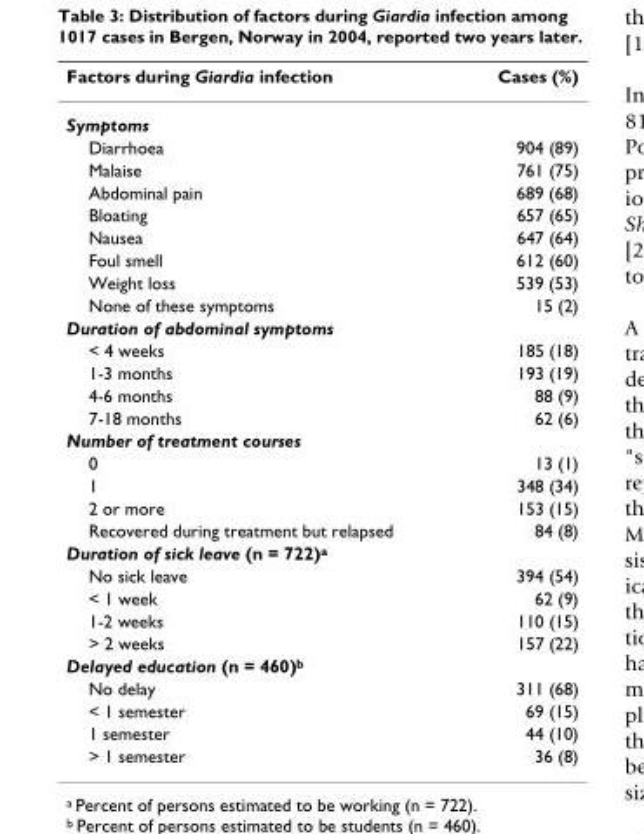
<table><thead><tr><td>Factors during Giardia infection</td><td>Cases (%)</td></tr></thead><tbody><tr><td colspan="2">Symptoms</td></tr><tr><td>Diarrhoea</td><td>904 (89)</td></tr><tr><td>Malaise</td><td>761 (75)</td></tr><tr><td>Abdominal pain</td><td>689 (68)</td></tr><tr><td>Bloating</td><td>657 (65)</td></tr><tr><td>Nausea</td><td>647 (64)</td></tr><tr><td>Foul smell</td><td>612 (60)</td></tr><tr><td>Weight loss</td><td>539 (53)</td></tr><tr><td>None of these symptoms</td><td>15 (2)</td></tr><tr><td colspan="2">Duration of abdominal symptoms</td></tr><tr><td>&lt; 4 weeks</td><td>185 (18)</td></tr><tr><td>1-3 months</td><td>193 (19)</td></tr><tr><td>4-6 months</td><td>88 (9)</td></tr><tr><td>7-18 months</td><td>62 (6)</td></tr><tr><td colspan="2">Number of treatment courses</td></tr><tr><td>0</td><td>13 (1)</td></tr><tr><td>1</td><td>348 (34)</td></tr><tr><td>2 or more</td><td>153 (15)</td></tr><tr><td>Recovered during treatment but relapsed</td><td>84 (8)</td></tr><tr><td colspan="2">Duration of sick leave (n = 722)<sup>a</sup></td></tr><tr><td>No sick leave</td><td>394 (54)</td></tr><tr><td>&lt; 1 week</td><td>62 (9)</td></tr><tr><td>1-2 weeks</td><td>110 (15)</td></tr><tr><td>&gt; 2 weeks</td><td>157 (22)</td></tr><tr><td colspan="2">Delayed education (n = 460)<sup>b</sup></td></tr><tr><td>No delay</td><td>311 (68)</td></tr><tr><td>&lt; 1 semester</td><td>69 (15)</td></tr><tr><td>1 semester</td><td>44 (10)</td></tr><tr><td>&gt; 1 semester</td><td>36 (8)</td></tr></tbody></table>